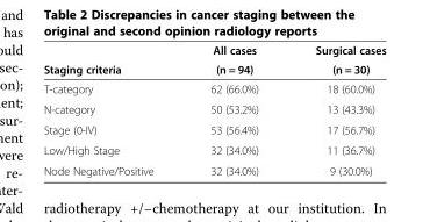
<table><thead><tr><td rowspan="2">Staging criteria</td><td rowspan="2">All cases (n = 94)</td><td rowspan="2">Surgical cases (n = 30)</td></tr><tr></tr></thead><tbody><tr><td>T-category</td><td>62 (66.0%)</td><td>18 (60.0%)</td></tr><tr><td>N-category</td><td>50 (53.2%)</td><td>13 (43.3%)</td></tr><tr><td>Stage (0-IV)</td><td>53 (56.4%)</td><td>17 (56.7%)</td></tr><tr><td>Low/High Stage</td><td>32 (34.0%)</td><td>11 (36.7%)</td></tr><tr><td>Node Negative/Positive</td><td>32 (34.0%)</td><td>9 (30.0%)</td></tr></tbody></table>